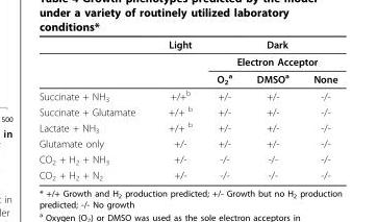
<table><thead><tr><td rowspan="3"></td><td rowspan="3">Light</td><td rowspan="2" colspan="3">Dark Electron Acceptor</td></tr><tr></tr><tr><td>O2 a</td><td>DMSOa</td><td>None</td></tr></thead><tbody><tr><td>Succinate + NH<sub>3</sub></td><td>+/+<sup>b</sup></td><td>+/-</td><td>+/-</td><td>-/-</td></tr><tr><td>Succinate + Glutamate</td><td>+/+ <sup>b</sup></td><td>+/-</td><td>+/-</td><td>-/-</td></tr><tr><td>Lactate + NH<sub>3</sub></td><td>+/+ <sup>b</sup></td><td>+/-</td><td>+/-</td><td>-/-</td></tr><tr><td>Glutamate only</td><td>+/-</td><td>+/-</td><td>+/-</td><td>-/-</td></tr><tr><td>CO<sub>2</sub> + H<sub>2</sub> + NH<sub>3</sub></td><td>+/-</td><td>-/-</td><td>-/-</td><td>-/-</td></tr><tr><td>CO<sub>2</sub> + H<sub>2</sub> + N<sub>2</sub></td><td>+/-</td><td>-/-</td><td>-/-</td><td>-/-</td></tr></tbody></table>